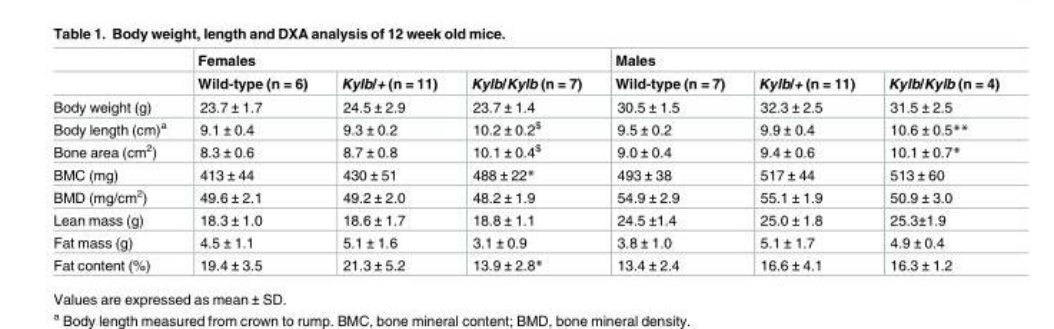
<table><thead><tr><td rowspan="2"></td><td colspan="3">Females</td><td colspan="3">Males</td></tr><tr><td>Wild-type (n = 6)</td><td>Kylb/+ (n = 11)</td><td>Kylb/Kylb (n = 7)</td><td>Wild-type (n = 7)</td><td>Kylb/+ (n = 11)</td><td>Kylb/Kylb (n = 4)</td></tr></thead><tbody><tr><td>Body weight (g)</td><td>23.7 ± 1.7</td><td>24.5 ± 2.9</td><td>23.7 ± 1.4</td><td>30.5 ± 1.5</td><td>32.3 ± 2.5</td><td>31.5 ± 2.5</td></tr><tr><td>Body length (cm)<sup>a</sup></td><td>9.1 ± 0.4</td><td>9.3 ± 0.2</td><td>10.2 ± 0.2<sup>$</sup></td><td>9.5 ± 0.2</td><td>9.9 ± 0.4</td><td>10.6 ± 0.5**</td></tr><tr><td>Bone area (cm<sup>2</sup>)</td><td>8.3 ± 0.6</td><td>8.7 ± 0.8</td><td>10.1 ± 0.4<sup>$</sup></td><td>9.0 ± 0.4</td><td>9.4 ± 0.6</td><td>10.1 ± 0.7*</td></tr><tr><td>BMC (mg)</td><td>413 ± 44</td><td>430 ± 51</td><td>488 ± 22*</td><td>493 ± 38</td><td>517 ± 44</td><td>513 ± 60</td></tr><tr><td>BMD (mg/cm<sup>2</sup>)</td><td>49.6 ± 2.1</td><td>49.2 ± 2.0</td><td>48.2 ± 1.9</td><td>54.9 ± 2.9</td><td>55.1 ± 1.9</td><td>50.9 ± 3.0</td></tr><tr><td>Lean mass (g)</td><td>18.3 ± 1.0</td><td>18.6 ± 1.7</td><td>18.8 ± 1.1</td><td>24.5 ±1.4</td><td>25.0 ± 1.8</td><td>25.3±1.9</td></tr><tr><td>Fat mass (g)</td><td>4.5 ± 1.1</td><td>5.1 ± 1.6</td><td>3.1 ± 0.9</td><td>3.8 ± 1.0</td><td>5.1 ± 1.7</td><td>4.9 ± 0.4</td></tr><tr><td>Fat content (%)</td><td>19.4 ± 3.5</td><td>21.3 ± 5.2</td><td>13.9 ± 2.8*</td><td>13.4 ± 2.4</td><td>16.6 ± 4.1</td><td>16.3 ± 1.2</td></tr></tbody></table>